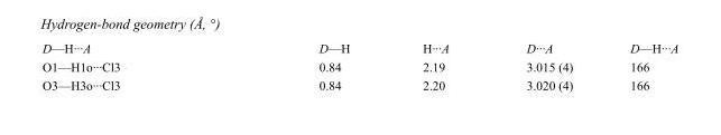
<table><tbody><tr><td>D—H···A</td><td>D—H</td><td>H···A</td><td>D···A</td><td>D—H···A</td></tr><tr><td>O1—H1o···Cl3</td><td>0.84</td><td>2.19</td><td>3.015 (4)</td><td>166</td></tr><tr><td>O3—H3o···Cl3</td><td>0.84</td><td>2.20</td><td>3.020 (4)</td><td>166</td></tr></tbody></table>